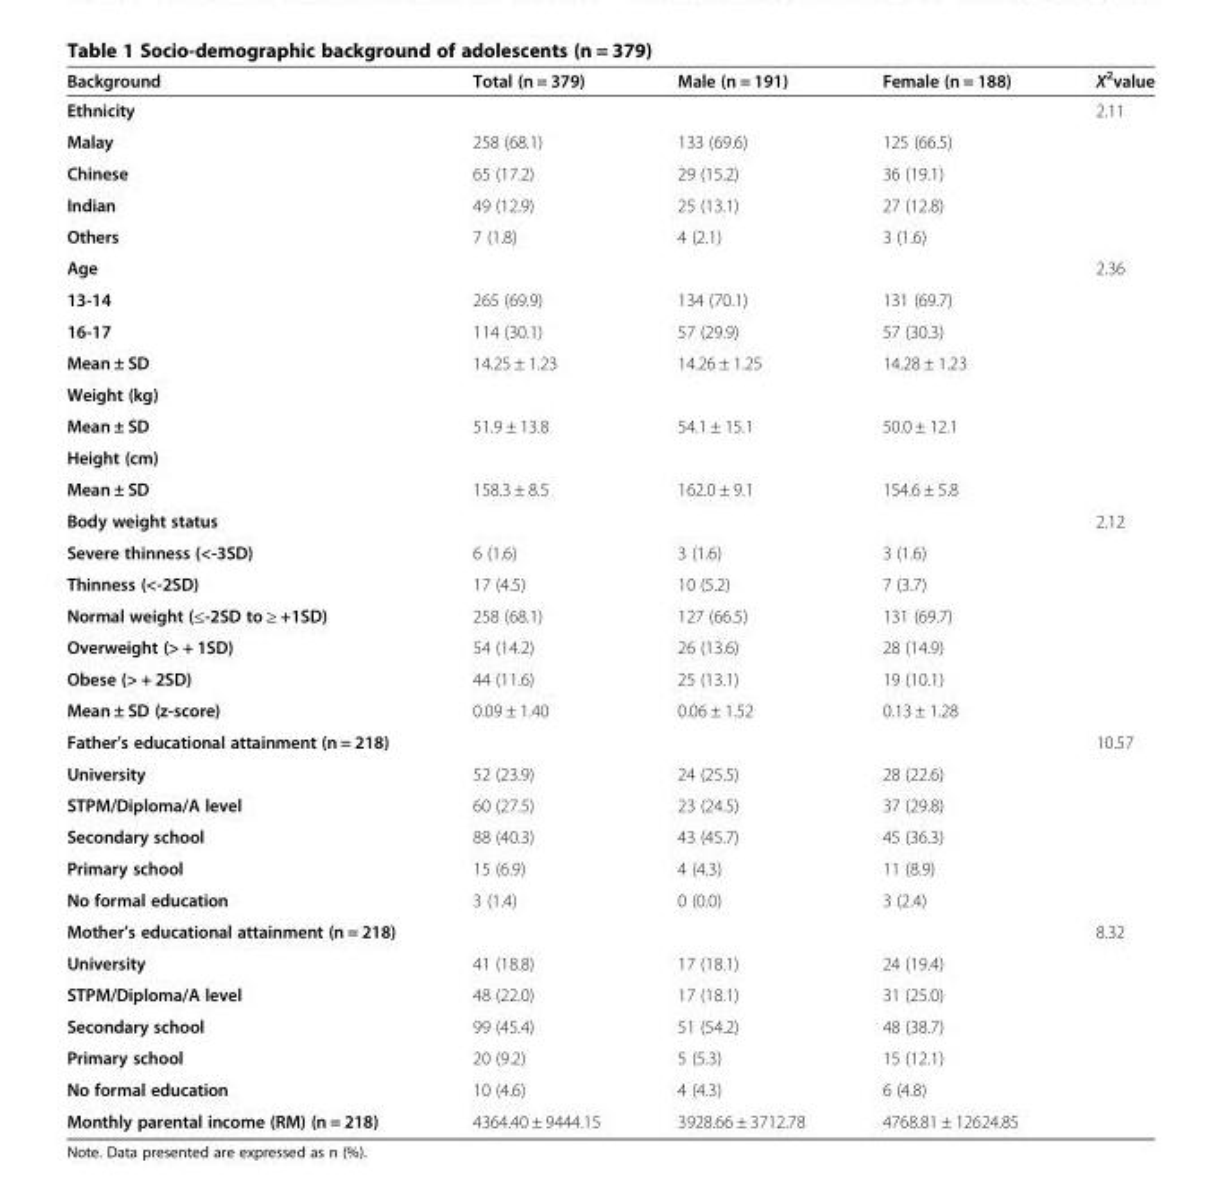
<table><thead><tr><td>Background</td><td>Total (n = 379)</td><td>Male (n = 191)</td><td>Female (n = 188)</td><td>X<sup>2</sup>value</td></tr></thead><tbody><tr><td>Ethnicity</td><td></td><td></td><td></td><td>2.11</td></tr><tr><td>Malay</td><td>258 (68.1)</td><td>133 (69.6)</td><td>125 (66.5)</td><td></td></tr><tr><td>Chinese</td><td>65 (17.2)</td><td>29 (15.2)</td><td>36 (19.1)</td><td></td></tr><tr><td>Indian</td><td>49 (12.9)</td><td>25 (13.1)</td><td>27 (12.8)</td><td></td></tr><tr><td>Others</td><td>7 (1.8)</td><td>4 (2.1)</td><td>3 (1.6)</td><td></td></tr><tr><td>Age</td><td></td><td></td><td></td><td>2.36</td></tr><tr><td>13-14</td><td>265 (69.9)</td><td>134 (70.1)</td><td>131 (69.7)</td><td></td></tr><tr><td>16-17</td><td>114 (30.1)</td><td>57 (29.9)</td><td>57 (30.3)</td><td></td></tr><tr><td>Mean ± SD</td><td>14.25 ± 1.23</td><td>14.26 ± 1.25</td><td>14.28 ± 1.23</td><td></td></tr><tr><td colspan="5">Weight (kg)</td></tr><tr><td>Mean ± SD</td><td>51.9 ± 13.8</td><td>54.1 ± 15.1</td><td>50.0 ± 12.1</td><td></td></tr><tr><td colspan="5">Height (cm)</td></tr><tr><td>Mean ± SD</td><td>158.3 ± 8.5</td><td>162.0 ± 9.1</td><td>154.6 ± 5.8</td><td></td></tr><tr><td>Body weight status</td><td></td><td></td><td></td><td>2.12</td></tr><tr><td>Severe thinness (&lt;-3SD)</td><td>6 (1.6)</td><td>3 (1.6)</td><td>3 (1.6)</td><td></td></tr><tr><td>Thinness (&lt;-2SD)</td><td>17 (4.5)</td><td>10 (5.2)</td><td>7 (3.7)</td><td></td></tr><tr><td>Normal weight (≤-2SD to ≥ +1SD)</td><td>258 (68.1)</td><td>127 (66.5)</td><td>131 (69.7)</td><td></td></tr><tr><td>Overweight (&gt; + 1SD)</td><td>54 (14.2)</td><td>26 (13.6)</td><td>28 (14.9)</td><td></td></tr><tr><td>Obese (&gt; + 2SD)</td><td>44 (11.6)</td><td>25 (13.1)</td><td>19 (10.1)</td><td></td></tr><tr><td>Mean ± SD (z-score)</td><td>0.09 ± 1.40</td><td>0.06 ± 1.52</td><td>0.13 ± 1.28</td><td></td></tr><tr><td>Father’s educational attainment (n = 218)</td><td></td><td></td><td></td><td>10.57</td></tr><tr><td>University</td><td>52 (23.9)</td><td>24 (25.5)</td><td>28 (22.6)</td><td></td></tr><tr><td>STPM/Diploma/A level</td><td>60 (27.5)</td><td>23 (24.5)</td><td>37 (29.8)</td><td></td></tr><tr><td>Secondary school</td><td>88 (40.3)</td><td>43 (45.7)</td><td>45 (36.3)</td><td></td></tr><tr><td>Primary school</td><td>15 (6.9)</td><td>4 (4.3)</td><td>11 (8.9)</td><td></td></tr><tr><td>No formal education</td><td>3 (1.4)</td><td>0 (0.0)</td><td>3 (2.4)</td><td></td></tr><tr><td>Mother’s educational attainment (n = 218)</td><td></td><td></td><td></td><td>8.32</td></tr><tr><td>University</td><td>41 (18.8)</td><td>17 (18.1)</td><td>24 (19.4)</td><td></td></tr><tr><td>STPM/Diploma/A level</td><td>48 (22.0)</td><td>17 (18.1)</td><td>31 (25.0)</td><td></td></tr><tr><td>Secondary school</td><td>99 (45.4)</td><td>51 (54.2)</td><td>48 (38.7)</td><td></td></tr><tr><td>Primary school</td><td>20 (9.2)</td><td>5 (5.3)</td><td>15 (12.1)</td><td></td></tr><tr><td>No formal education</td><td>10 (4.6)</td><td>4 (4.3)</td><td>6 (4.8)</td><td></td></tr><tr><td>Monthly parental income (RM) (n = 218)</td><td>4364.40 ± 9444.15</td><td>3928.66 ± 3712.78</td><td>4768.81 ± 12624.85</td><td></td></tr></tbody></table>